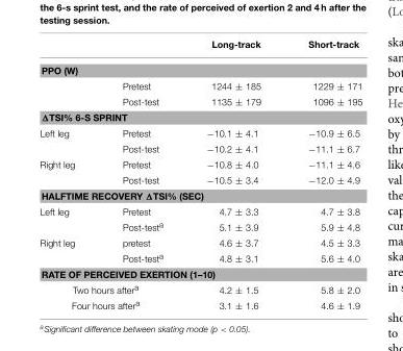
<table><thead><tr><td></td><td></td><td>Long-track</td><td>Short-track</td></tr></thead><tbody><tr><td colspan="4">PPO (W)</td></tr><tr><td></td><td>Pretest</td><td>1244 ± 185</td><td>1229 ± 171</td></tr><tr><td></td><td>Post-test</td><td>1135 ± 179</td><td>1096 ± 195</td></tr><tr><td colspan="4">ΔTSI% 6-S SPRINT</td></tr><tr><td rowspan="2">Left leg</td><td>Pretest</td><td>−10.1 ± 4.1</td><td>−10.9 ± 6.5</td></tr><tr><td>Post-test</td><td>−10.2 ± 4.1</td><td>−11.1 ± 6.7</td></tr><tr><td rowspan="2">Right leg</td><td>Pretest</td><td>−10.8 ± 4.0</td><td>−11.1 ± 4.6</td></tr><tr><td>Post-test</td><td>−10.5 ± 3.4</td><td>−12.0 ± 4.9</td></tr><tr><td colspan="4">HALFTIME RECOVERY ΔTSI% (SEC)</td></tr><tr><td rowspan="2">Left leg</td><td>Pretest</td><td>4.7 ± 3.3</td><td>4.7 ± 3.8</td></tr><tr><td>Post-test<sup>a</sup></td><td>5.1 ± 3.9</td><td>5.9 ± 4.8</td></tr><tr><td rowspan="2">Right leg</td><td>pretest</td><td>4.6 ± 3.7</td><td>4.5 ± 3.3</td></tr><tr><td>Post-test<sup>a</sup></td><td>4.8 ± 3.1</td><td>5.6 ± 4.0</td></tr><tr><td colspan="4">RATE OF PERCEIVED EXERTION (1–10)</td></tr><tr><td colspan="2">Two hours after<sup>a</sup></td><td>4.2 ± 1.5</td><td>5.8 ± 2.0</td></tr><tr><td colspan="2">Four hours after<sup>a</sup></td><td>3.1 ± 1.6</td><td>4.6 ± 1.9</td></tr></tbody></table>